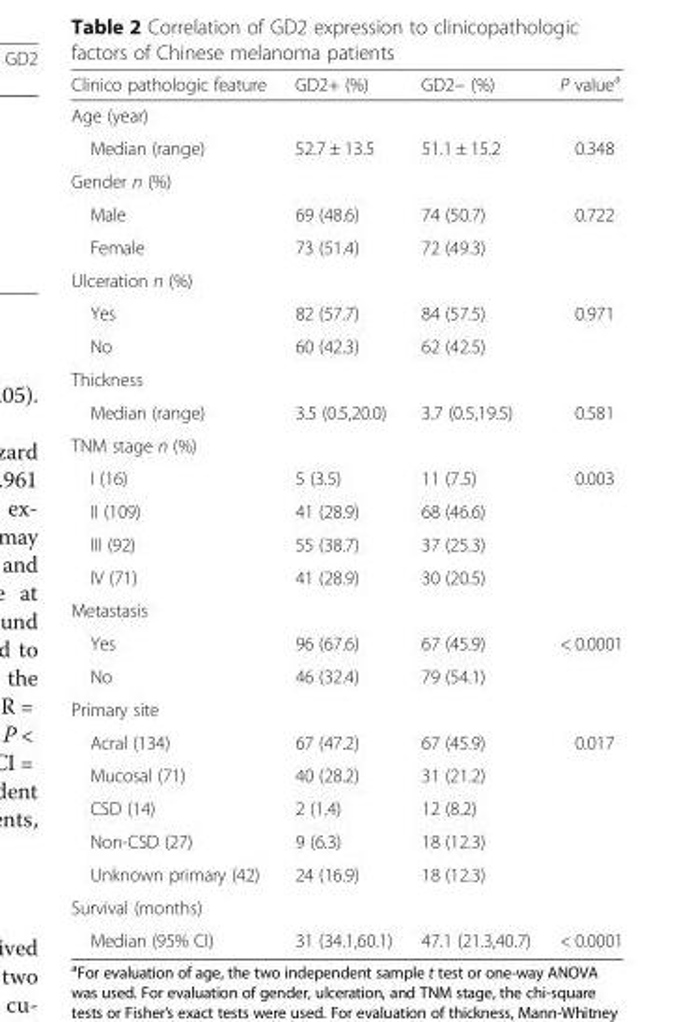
<table><thead><tr><td>Clinico pathologic feature</td><td>GD2+ (%)</td><td>GD2− (%)</td><td>P value<sup>a</sup></td></tr></thead><tbody><tr><td colspan="4">Age (year)</td></tr><tr><td>Median (range)</td><td>52.7 ± 13.5</td><td>51.1 ± 15.2</td><td>0.348</td></tr><tr><td colspan="4">Gender n (%)</td></tr><tr><td>Male</td><td>69 (48.6)</td><td>74 (50.7)</td><td rowspan="2">0.722</td></tr><tr><td>Female</td><td>73 (51.4)</td><td>72 (49.3)</td></tr><tr><td colspan="4">Ulceration n (%)</td></tr><tr><td>Yes</td><td>82 (57.7)</td><td>84 (57.5)</td><td rowspan="2">0.971</td></tr><tr><td>No</td><td>60 (42.3)</td><td>62 (42.5)</td></tr><tr><td colspan="4">Thickness</td></tr><tr><td>Median (range)</td><td>3.5 (0.5,20.0)</td><td>3.7 (0.5,19.5)</td><td>0.581</td></tr><tr><td colspan="4">TNM stage n (%)</td></tr><tr><td>I (16)</td><td>5 (3.5)</td><td>11 (7.5)</td><td rowspan="4">0.003</td></tr><tr><td>II (109)</td><td>41 (28.9)</td><td>68 (46.6)</td></tr><tr><td>III (92)</td><td>55 (38.7)</td><td>37 (25.3)</td></tr><tr><td>IV (71)</td><td>41 (28.9)</td><td>30 (20.5)</td></tr><tr><td colspan="4">Metastasis</td></tr><tr><td>Yes</td><td>96 (67.6)</td><td>67 (45.9)</td><td rowspan="2">&lt; 0.0001</td></tr><tr><td>No</td><td>46 (32.4)</td><td>79 (54.1)</td></tr><tr><td colspan="4">Primary site</td></tr><tr><td>Acral (134)</td><td>67 (47.2)</td><td>67 (45.9)</td><td rowspan="5">0.017</td></tr><tr><td>Mucosal (71)</td><td>40 (28.2)</td><td>31 (21.2)</td></tr><tr><td>CSD (14)</td><td>2 (1.4)</td><td>12 (8.2)</td></tr><tr><td>Non-CSD (27)</td><td>9 (6.3)</td><td>18 (12.3)</td></tr><tr><td>Unknown primary (42)</td><td>24 (16.9)</td><td>18 (12.3)</td></tr><tr><td colspan="4">Survival (months)</td></tr><tr><td>Median (95% CI)</td><td>31 (34.1,60.1)</td><td>47.1 (21.3,40.7)</td><td>&lt; 0.0001</td></tr></tbody></table>